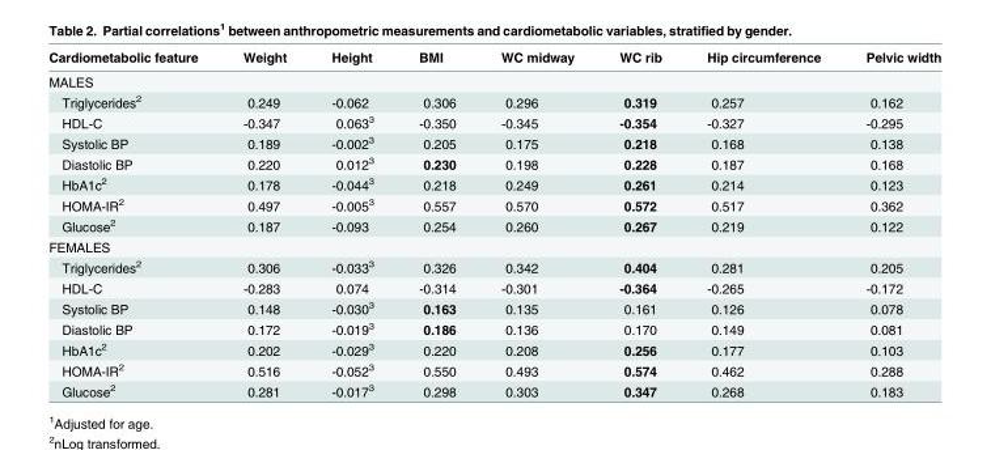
<table><thead><tr><td>Cardiometabolic feature</td><td>Weight</td><td>Height</td><td>BMI</td><td>WC midway</td><td>WC rib</td><td>Hip circumference</td><td>Pelvic width</td></tr></thead><tbody><tr><td colspan="8">MALES</td></tr><tr><td>Triglycerides<sup>2</sup></td><td>0.249</td><td>-0.062</td><td>0.306</td><td>0.296</td><td>0.319</td><td>0.257</td><td>0.162</td></tr><tr><td>HDL-C</td><td>-0.347</td><td>0.063<sup>3</sup></td><td>-0.350</td><td>-0.345</td><td>-0.354</td><td>-0.327</td><td>-0.295</td></tr><tr><td>Systolic BP</td><td>0.189</td><td>-0.002<sup>3</sup></td><td>0.205</td><td>0.175</td><td>0.218</td><td>0.168</td><td>0.138</td></tr><tr><td>Diastolic BP</td><td>0.220</td><td>0.012<sup>3</sup></td><td>0.230</td><td>0.198</td><td>0.228</td><td>0.187</td><td>0.168</td></tr><tr><td>HbA1c<sup>2</sup></td><td>0.178</td><td>-0.044<sup>3</sup></td><td>0.218</td><td>0.249</td><td>0.261</td><td>0.214</td><td>0.123</td></tr><tr><td>HOMA-IR<sup>2</sup></td><td>0.497</td><td>-0.005<sup>3</sup></td><td>0.557</td><td>0.570</td><td>0.572</td><td>0.517</td><td>0.362</td></tr><tr><td>Glucose<sup>2</sup></td><td>0.187</td><td>-0.093</td><td>0.254</td><td>0.260</td><td>0.267</td><td>0.219</td><td>0.122</td></tr><tr><td colspan="8">FEMALES</td></tr><tr><td>Triglycerides<sup>2</sup></td><td>0.306</td><td>-0.033<sup>3</sup></td><td>0.326</td><td>0.342</td><td>0.404</td><td>0.281</td><td>0.205</td></tr><tr><td>HDL-C</td><td>-0.283</td><td>0.074</td><td>-0.314</td><td>-0.301</td><td>-0.364</td><td>-0.265</td><td>-0.172</td></tr><tr><td>Systolic BP</td><td>0.148</td><td>-0.030<sup>3</sup></td><td>0.163</td><td>0.135</td><td>0.161</td><td>0.126</td><td>0.078</td></tr><tr><td>Diastolic BP</td><td>0.172</td><td>-0.019<sup>3</sup></td><td>0.186</td><td>0.136</td><td>0.170</td><td>0.149</td><td>0.081</td></tr><tr><td>HbA1c<sup>2</sup></td><td>0.202</td><td>-0.029<sup>3</sup></td><td>0.220</td><td>0.208</td><td>0.256</td><td>0.177</td><td>0.103</td></tr><tr><td>HOMA-IR<sup>2</sup></td><td>0.516</td><td>-0.052<sup>3</sup></td><td>0.550</td><td>0.493</td><td>0.574</td><td>0.462</td><td>0.288</td></tr><tr><td>Glucose<sup>2</sup></td><td>0.281</td><td>-0.017<sup>3</sup></td><td>0.298</td><td>0.303</td><td>0.347</td><td>0.268</td><td>0.183</td></tr></tbody></table>